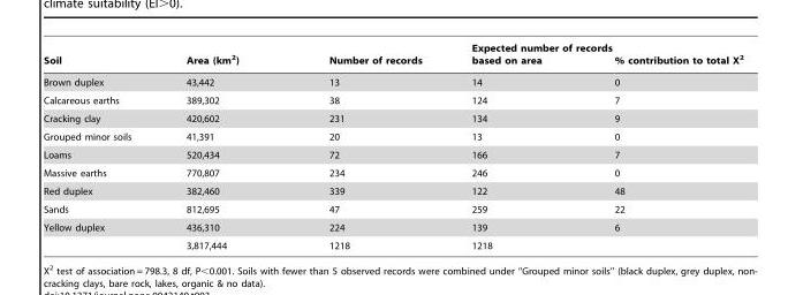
<table><thead><tr><td>Soil</td><td>Area (km<sup>2</sup>)</td><td>Number of records</td><td>Expected number of records based on area</td><td>% contribution to total X<sup>2</sup></td></tr></thead><tbody><tr><td>Brown duplex</td><td>43,442</td><td>13</td><td>14</td><td>0</td></tr><tr><td>Calcareous earths</td><td>389,302</td><td>38</td><td>124</td><td>7</td></tr><tr><td>Cracking clay</td><td>420,602</td><td>231</td><td>134</td><td>9</td></tr><tr><td>Grouped minor soils</td><td>41,391</td><td>20</td><td>13</td><td>0</td></tr><tr><td>Loams</td><td>520,434</td><td>72</td><td>166</td><td>7</td></tr><tr><td>Massive earths</td><td>770,807</td><td>234</td><td>246</td><td>0</td></tr><tr><td>Red duplex</td><td>382,460</td><td>339</td><td>122</td><td>48</td></tr><tr><td>Sands</td><td>812,695</td><td>47</td><td>259</td><td>22</td></tr><tr><td rowspan="2">Yellow duplex</td><td>436,310</td><td>224</td><td>139</td><td>6</td></tr><tr><td>3,817,444</td><td>1218</td><td>1218</td><td></td></tr></tbody></table>